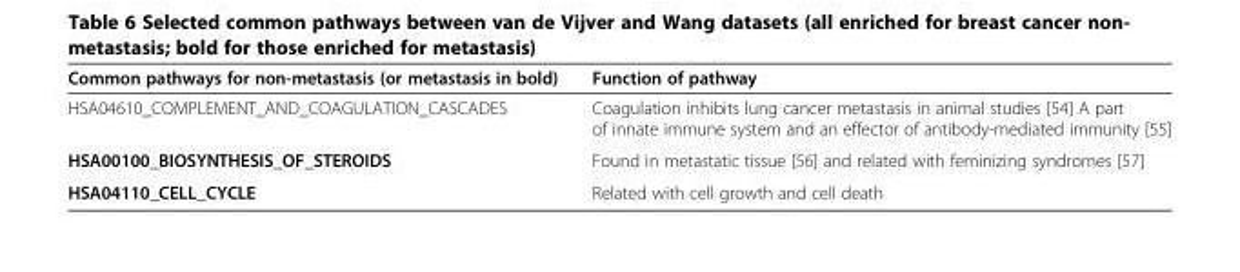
<table><thead><tr><td>Common pathways for non-metastasis (or metastasis in bold)</td><td>Function of pathway</td></tr></thead><tbody><tr><td>HSA04610_COMPLEMENT_AND_COAGULATION_CASCADES</td><td>Coagulation inhibits lung cancer metastasis in animal studies [54] A part of innate immune system and an effector of antibody-mediated immunity [55]</td></tr><tr><td>HSA00100_BIOSYNTHESIS_OF_STEROIDS</td><td>Found in metastatic tissue [56] and related with feminizing syndromes [57]</td></tr><tr><td>HSA04110_CELL_CYCLE</td><td>Related with cell growth and cell death</td></tr></tbody></table>